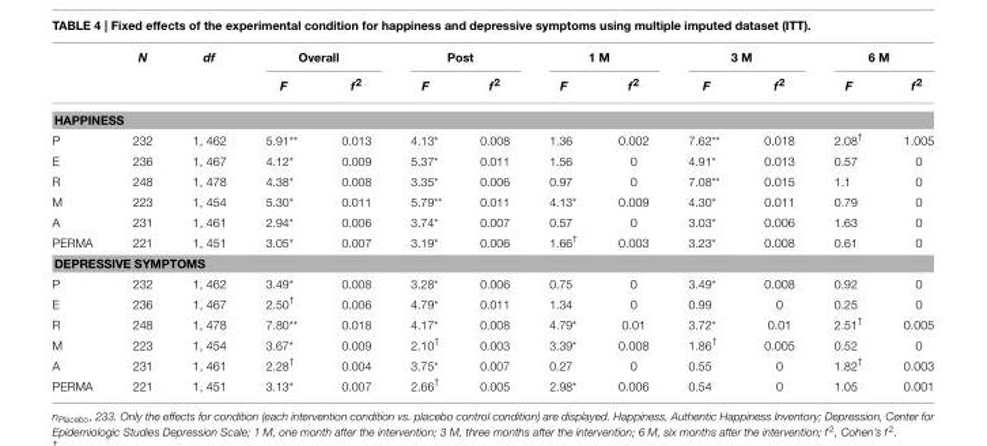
<table><thead><tr><td rowspan="2"></td><td rowspan="2">N</td><td rowspan="2">df</td><td colspan="2">Overall</td><td colspan="2">Post</td><td colspan="2">1 M</td><td colspan="2">3 M</td><td colspan="2">6 M</td></tr><tr><td>F</td><td>f<sup>2</sup></td><td>F</td><td>f<sup>2</sup></td><td>F</td><td>f<sup>2</sup></td><td>F</td><td>f<sup>2</sup></td><td>F</td><td>f<sup>2</sup></td></tr></thead><tbody><tr><td colspan="13">HAPPINESS</td></tr><tr><td>P</td><td>232</td><td>1, 462</td><td>5.91**</td><td>0.013</td><td>4.13*</td><td>0.008</td><td>1.36</td><td>0.002</td><td>7.62**</td><td>0.018</td><td>2.08<sup>†</sup></td><td>1.005</td></tr><tr><td>E</td><td>236</td><td>1, 467</td><td>4.12*</td><td>0.009</td><td>5.37*</td><td>0.011</td><td>1.56</td><td>0</td><td>4.91*</td><td>0.013</td><td>0.57</td><td>0</td></tr><tr><td>R</td><td>248</td><td>1, 478</td><td>4.38*</td><td>0.008</td><td>3.35*</td><td>0.006</td><td>0.97</td><td>0</td><td>7.08**</td><td>0.015</td><td>1.1</td><td>0</td></tr><tr><td>M</td><td>223</td><td>1, 454</td><td>5.30*</td><td>0.011</td><td>5.79**</td><td>0.011</td><td>4.13*</td><td>0.009</td><td>4.30*</td><td>0.011</td><td>0.79</td><td>0</td></tr><tr><td>A</td><td>231</td><td>1, 461</td><td>2.94*</td><td>0.006</td><td>3.74*</td><td>0.007</td><td>0.57</td><td>0</td><td>3.03*</td><td>0.006</td><td>1.63</td><td>0</td></tr><tr><td>PERMA</td><td>221</td><td>1, 451</td><td>3.05*</td><td>0.007</td><td>3.19*</td><td>0.006</td><td>1.66<sup>†</sup></td><td>0.003</td><td>3.23*</td><td>0.008</td><td>0.61</td><td>0</td></tr><tr><td colspan="13">DEPRESSIVE SYMPTOMS</td></tr><tr><td>P</td><td>232</td><td>1, 462</td><td>3.49*</td><td>0.008</td><td>3.28*</td><td>0.006</td><td>0.75</td><td>0</td><td>3.49*</td><td>0.008</td><td>0.92</td><td>0</td></tr><tr><td>E</td><td>236</td><td>1, 467</td><td>2.50<sup>†</sup></td><td>0.006</td><td>4.79*</td><td>0.011</td><td>1.34</td><td>0</td><td>0.99</td><td>0</td><td>0.25</td><td>0</td></tr><tr><td>R</td><td>248</td><td>1, 478</td><td>7.80**</td><td>0.018</td><td>4.17*</td><td>0.008</td><td>4.79*</td><td>0.01</td><td>3.72*</td><td>0.01</td><td>2.51<sup>†</sup></td><td>0.005</td></tr><tr><td>M</td><td>223</td><td>1, 454</td><td>3.67*</td><td>0.009</td><td>2.10<sup>†</sup></td><td>0.003</td><td>3.39*</td><td>0.008</td><td>1.86<sup>†</sup></td><td>0.005</td><td>0.52</td><td>0</td></tr><tr><td>A</td><td>231</td><td>1, 461</td><td>2.28<sup>†</sup></td><td>0.004</td><td>3.75*</td><td>0.007</td><td>0.27</td><td>0</td><td>0.55</td><td>0</td><td>1.82<sup>†</sup></td><td>0.003</td></tr><tr><td>PERMA</td><td>221</td><td>1, 451</td><td>3.13*</td><td>0.007</td><td>2.66<sup>†</sup></td><td>0.005</td><td>2.98*</td><td>0.006</td><td>0.54</td><td>0</td><td>1.05</td><td>0.001</td></tr></tbody></table>